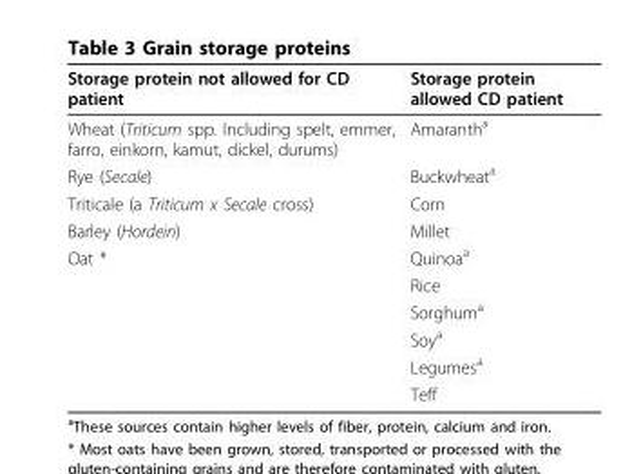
<table><thead><tr><td>Storage protein not allowed for CD patient</td><td>Storage protein allowed CD patient</td></tr></thead><tbody><tr><td>Wheat (Triticum spp. Including spelt, emmer, farro, einkorn, kamut, dickel, durums)</td><td>Amaranth<sup>a</sup></td></tr><tr><td>Rye (Secale)</td><td>Buckwheat<sup>a</sup></td></tr><tr><td>Triticale (a Triticum x Secale cross)</td><td>Corn</td></tr><tr><td>Barley (Hordein)</td><td>Millet</td></tr><tr><td rowspan="6">Oat *</td><td>Quinoa<sup>a</sup></td></tr><tr><td>Rice</td></tr><tr><td>Sorghum<sup>a</sup></td></tr><tr><td>Soy<sup>a</sup></td></tr><tr><td>Legumes<sup>a</sup></td></tr><tr><td>Teff</td></tr></tbody></table>